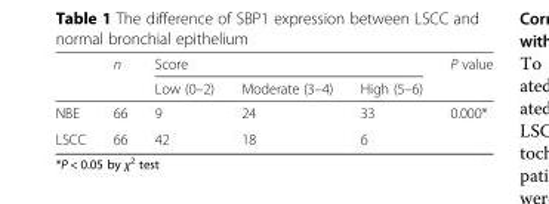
<table><thead><tr><td rowspan="2"></td><td rowspan="2">n</td><td colspan="3">Score</td><td rowspan="2">P value</td></tr><tr><td>Low (0–2)</td><td>Moderate (3–4)</td><td>High (5–6)</td></tr></thead><tbody><tr><td>NBE</td><td>66</td><td>9</td><td>24</td><td>33</td><td rowspan="2">0.000*</td></tr><tr><td>LSCC</td><td>66</td><td>42</td><td>18</td><td>6</td></tr></tbody></table>